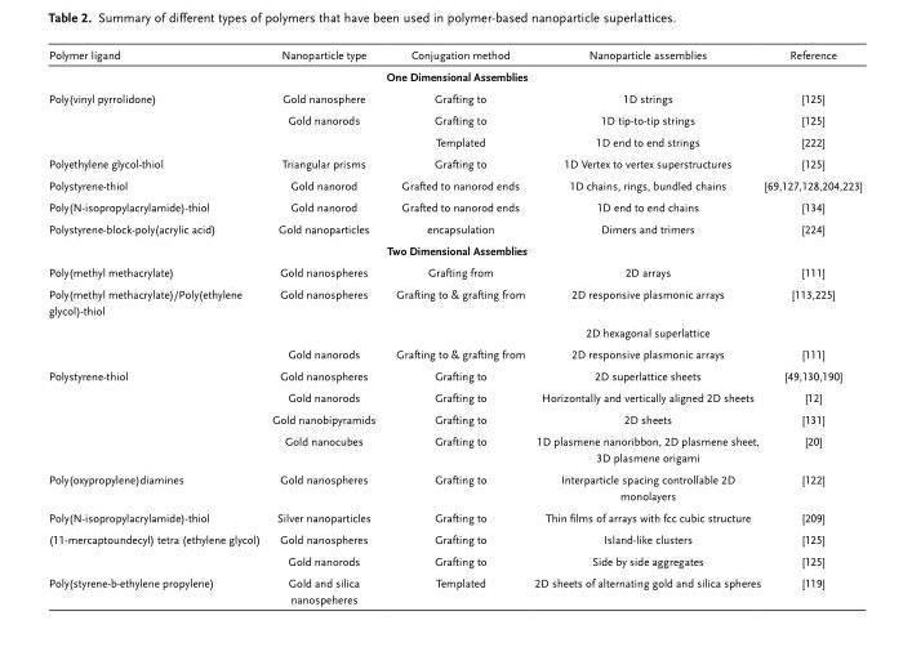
<table><thead><tr><td>Polymer ligand</td><td>Nanoparticle type</td><td>Conjugation method</td><td>Nanoparticle assemblies</td><td>Reference</td></tr></thead><tbody><tr><td colspan="5">One Dimensional Assemblies</td></tr><tr><td rowspan="3">Poly(vinyl pyrrolidone)</td><td>Gold nanosphere</td><td>Grafting to</td><td>1D strings</td><td>[125]</td></tr><tr><td>Gold nanorods</td><td>Grafting to</td><td>1D tip-to-tip strings</td><td>[125]</td></tr><tr><td></td><td>Templated</td><td>1D end to end strings</td><td>[222]</td></tr><tr><td>Polyethylene glycol-thiol</td><td>Triangular prisms</td><td>Grafting to</td><td>1D Vertex to vertex superstructures</td><td>[125]</td></tr><tr><td>Polystyrene-thiol</td><td>Gold nanorod</td><td>Grafted to nanorod ends</td><td>1D chains, rings, bundled chains</td><td>[69,127,128,204,223]</td></tr><tr><td>Poly(N-isopropylacrylamide)-thiol</td><td>Gold nanorod</td><td>Grafted to nanorod ends</td><td>1D end to end chains</td><td>[134]</td></tr><tr><td>Polystyrene-block-poly(acrylic acid)</td><td>Gold nanoparticles</td><td>encapsulation</td><td>Dimers and trimers</td><td>[224]</td></tr><tr><td colspan="5">Two Dimensional Assemblies</td></tr><tr><td>Poly(methyl methacrylate)</td><td>Gold nanospheres</td><td>Grafting from</td><td>2D arrays</td><td>[111]</td></tr><tr><td rowspan="3">Poly(methyl methacrylate)/Poly(ethylene glycol)-thiol</td><td>Gold nanospheres</td><td>Grafting to &amp; grafting from</td><td>2D responsive plasmonic arrays</td><td>[113,225]</td></tr><tr><td></td><td></td><td>2D hexagonal superlattice</td><td></td></tr><tr><td>Gold nanorods</td><td>Grafting to &amp; grafting from</td><td>2D responsive plasmonic arrays</td><td>[111]</td></tr><tr><td rowspan="4">Polystyrene-thiol</td><td>Gold nanospheres</td><td>Grafting to</td><td>2D superlattice sheets</td><td>[49,130,190]</td></tr><tr><td>Gold nanorods</td><td>Grafting to</td><td>Horizontally and vertically aligned 2D sheets</td><td>[12]</td></tr><tr><td>Gold nanobipyramids</td><td>Grafting to</td><td>2D sheets</td><td>[131]</td></tr><tr><td>Gold nanocubes</td><td>Grafting to</td><td>1D plasmene nanoribbon, 2D plasmene sheet, 3D plasmene origami</td><td>[20]</td></tr><tr><td>Poly(oxypropylene)diamines</td><td>Gold nanospheres</td><td>Grafting to</td><td>Interparticle spacing controllable 2D monolayers</td><td>[122]</td></tr><tr><td>Poly(N-isopropylacrylamide)-thiol</td><td>Silver nanoparticles</td><td>Grafting to</td><td>Thin films of arrays with fcc cubic structure</td><td>[209]</td></tr><tr><td rowspan="2">(11-mercaptoundecyl) tetra (ethylene glycol)</td><td>Gold nanospheres</td><td>Grafting to</td><td>Island-like clusters</td><td>[125]</td></tr><tr><td>Gold nanorods</td><td>Grafting to</td><td>Side by side aggregates</td><td>[125]</td></tr><tr><td>Poly(styrene-b-ethylene propylene)</td><td>Gold and silica nanospeheres</td><td>Templated</td><td>2D sheets of alternating gold and silica spheres</td><td>[119]</td></tr></tbody></table>